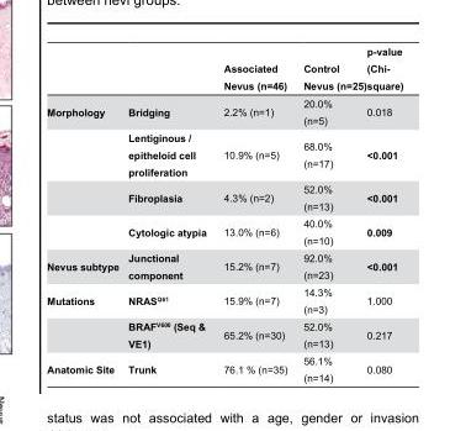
<table><thead><tr><td></td><td></td><td>Associated Nevus (n=46)</td><td>Control Nevus (n=25)</td><td>p-value (Chi- square)</td></tr></thead><tbody><tr><td rowspan="4">Morphology</td><td>Bridging</td><td>2.2% (n=1)</td><td>20.0% (n=5)</td><td>0.018</td></tr><tr><td>Lentiginous / epitheloid cell proliferation</td><td>10.9% (n=5)</td><td>68.0% (n=17)</td><td>&lt;0.001</td></tr><tr><td>Fibroplasia</td><td>4.3% (n=2)</td><td>52.0% (n=13)</td><td>&lt;0.001</td></tr><tr><td>Cytologic atypia</td><td>13.0% (n=6)</td><td>40.0% (n=10)</td><td>0.009</td></tr><tr><td>Nevus subtype</td><td>Junctional component</td><td>15.2% (n=7)</td><td>92.0% (n=23)</td><td>&lt;0.001</td></tr><tr><td rowspan="2">Mutations</td><td>NRAS<sup>Q61</sup></td><td>15.9% (n=7)</td><td>14.3% (n=3)</td><td>1.000</td></tr><tr><td>BRAF<sup>V600</sup> (Seq &amp; VE1)</td><td>65.2% (n=30)</td><td>52.0% (n=13)</td><td>0.217</td></tr><tr><td>Anatomic Site</td><td>Trunk</td><td>76.1 % (n=35)</td><td>56.1% (n=14)</td><td>0.080</td></tr></tbody></table>